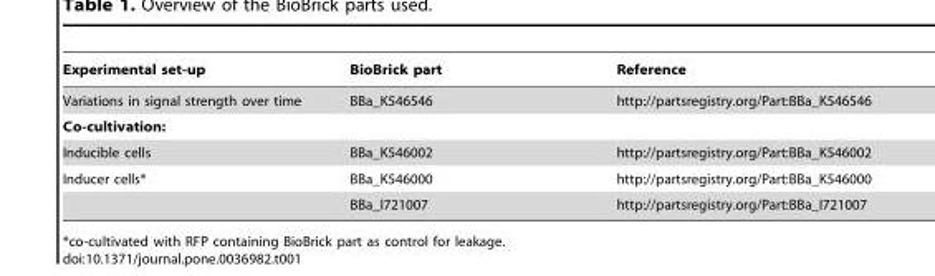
<table><thead><tr><td>Experimental set-up</td><td>BioBrick part</td><td>Reference</td></tr></thead><tbody><tr><td>Variations in signal strength over time</td><td>BBa_K546546</td><td>http://partsregistry.org/Part:BBa_K546546</td></tr><tr><td colspan="3">Co-cultivation:</td></tr><tr><td>Inducible cells</td><td>BBa_K546002</td><td>http://partsregistry.org/Part:BBa_K546002</td></tr><tr><td rowspan="2">Inducer cells*</td><td>BBa_K546000</td><td>http://partsregistry.org/Part:BBa_K546000</td></tr><tr><td>BBa_I721007</td><td>http://partsregistry.org/Part:BBa_I721007</td></tr></tbody></table>